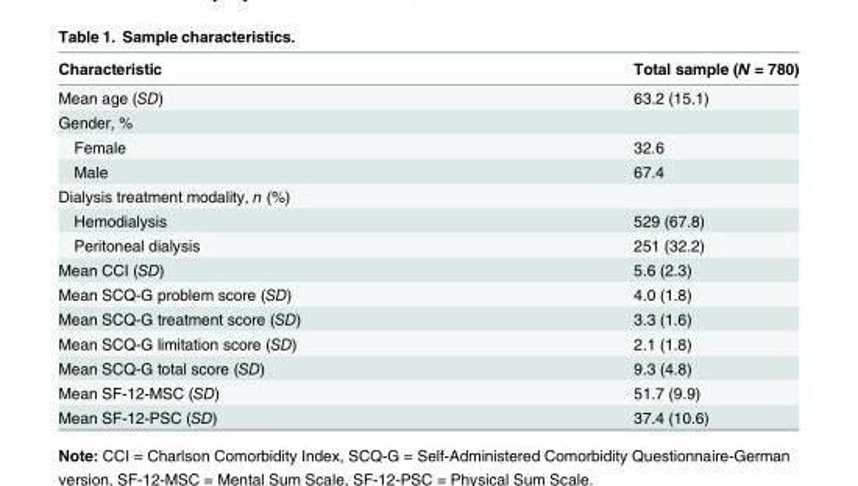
<table><thead><tr><td>Characteristic</td><td>Total sample (N = 780)</td></tr></thead><tbody><tr><td>Mean age (SD)</td><td>63.2 (15.1)</td></tr><tr><td colspan="2">Gender, %</td></tr><tr><td>Female</td><td>32.6</td></tr><tr><td>Male</td><td>67.4</td></tr><tr><td colspan="2">Dialysis treatment modality, n (%)</td></tr><tr><td>Hemodialysis</td><td>529 (67.8)</td></tr><tr><td>Peritoneal dialysis</td><td>251 (32.2)</td></tr><tr><td>Mean CCI (SD)</td><td>5.6 (2.3)</td></tr><tr><td>Mean SCQ-G problem score (SD)</td><td>4.0 (1.8)</td></tr><tr><td>Mean SCQ-G treatment score (SD)</td><td>3.3 (1.6)</td></tr><tr><td>Mean SCQ-G limitation score (SD)</td><td>2.1 (1.8)</td></tr><tr><td>Mean SCQ-G total score (SD)</td><td>9.3 (4.8)</td></tr><tr><td>Mean SF-12-MSC (SD)</td><td>51.7 (9.9)</td></tr><tr><td>Mean SF-12-PSC (SD)</td><td>37.4 (10.6)</td></tr></tbody></table>